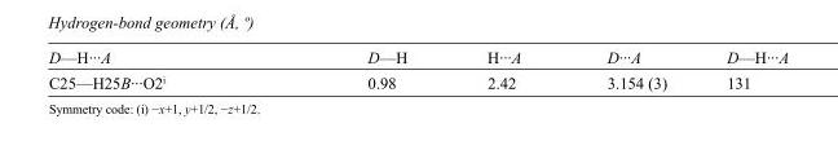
<table><tbody><tr><td>D—H···A</td><td>D—H</td><td>H···A</td><td>D···A</td><td>D—H···A</td></tr><tr><td>C25—H25B···O2<sup>i</sup></td><td>0.98</td><td>2.42</td><td>3.154 (3)</td><td>131</td></tr></tbody></table>